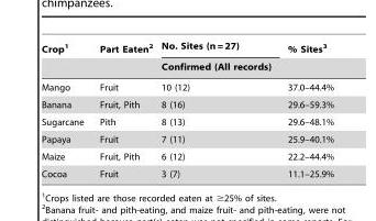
<table><thead><tr><td rowspan="2">Crop<sup>1</sup></td><td rowspan="2">Part Eaten<sup>2</sup></td><td rowspan="2">No. Sites (n = 27) Confirmed (All records)</td><td rowspan="2">% Sites<sup>3</sup></td></tr><tr></tr></thead><tbody><tr><td>Mango</td><td>Fruit</td><td>10 (12)</td><td>37.0–44.4%</td></tr><tr><td>Banana</td><td>Fruit, Pith</td><td>8 (16)</td><td>29.6–59.3%</td></tr><tr><td>Sugarcane</td><td>Pith</td><td>8 (13)</td><td>29.6–48.1%</td></tr><tr><td>Papaya</td><td>Fruit</td><td>7 (11)</td><td>25.9–40.1%</td></tr><tr><td>Maize</td><td>Fruit, Pith</td><td>6 (12)</td><td>22.2–44.4%</td></tr><tr><td>Cocoa</td><td>Fruit</td><td>3 (7)</td><td>11.1–25.9%</td></tr></tbody></table>